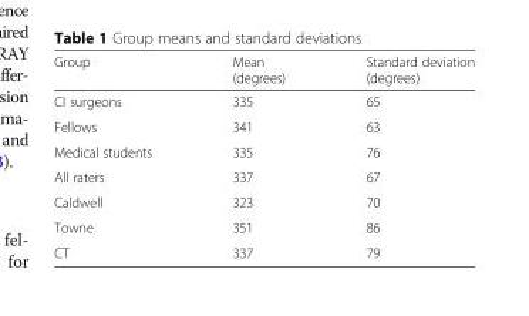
<table><thead><tr><td>Group</td><td>Mean (degrees)</td><td>Standard deviation (degrees)</td></tr></thead><tbody><tr><td>CI surgeons</td><td>335</td><td>65</td></tr><tr><td>Fellows</td><td>341</td><td>63</td></tr><tr><td>Medical students</td><td>335</td><td>76</td></tr><tr><td>All raters</td><td>337</td><td>67</td></tr><tr><td>Caldwell</td><td>323</td><td>70</td></tr><tr><td>Towne</td><td>351</td><td>86</td></tr><tr><td>CT</td><td>337</td><td>79</td></tr></tbody></table>